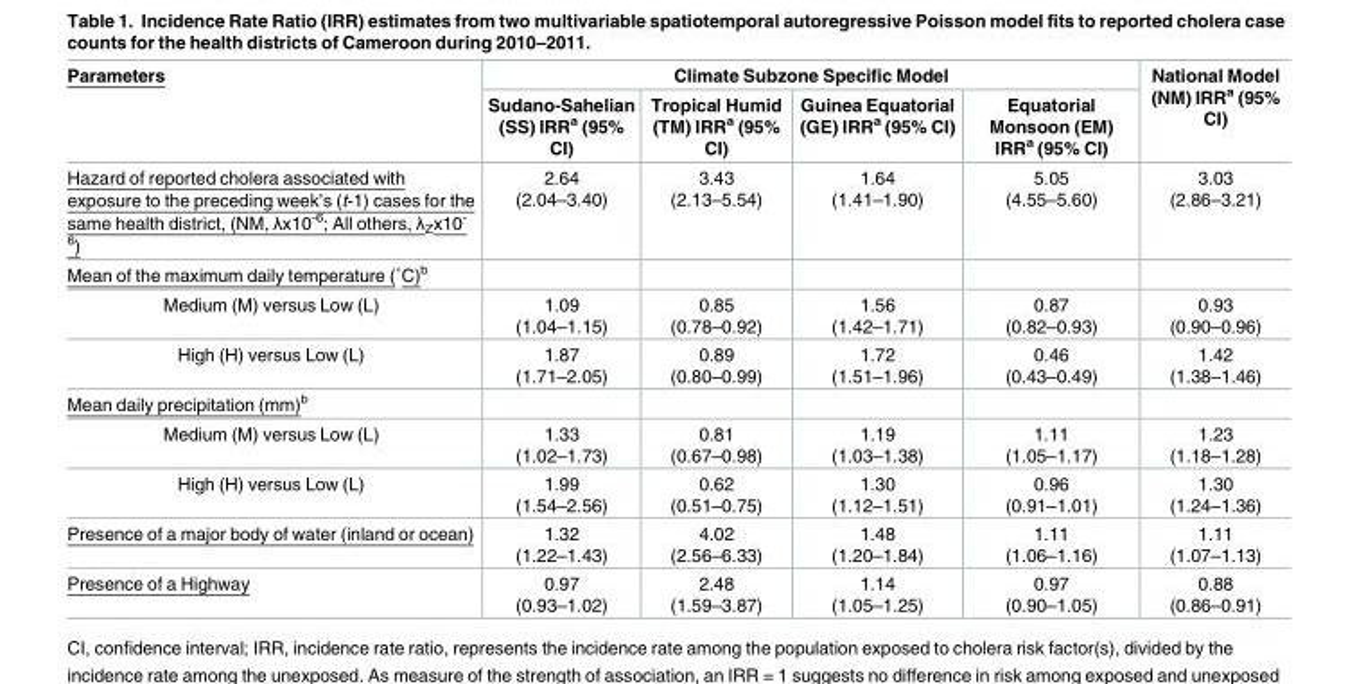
<table><thead><tr><td rowspan="2">Parameters</td><td colspan="4">Climate Subzone Specific Model</td><td rowspan="2">National Model (NM) IRR<sup>a</sup> (95% CI)</td></tr><tr><td>Sudano-Sahelian (SS) IRR<sup>a</sup> (95% CI)</td><td>Tropical Humid (TM) IRR<sup>a</sup> (95% CI)</td><td>Guinea Equatorial (GE) IRR<sup>a</sup> (95% CI)</td><td>Equatorial Monsoon (EM) IRR<sup>a</sup> (95% CI)</td></tr></thead><tbody><tr><td>Hazard of reported cholera associated with exposure to the preceding week’s (t-1) cases for the same health district, (NM, λx10<sup>-6</sup>; All others, λ<sub>Z</sub>x10<sup>- 6</sup>)</td><td>2.64 (2.04–3.40)</td><td>3.43 (2.13–5.54)</td><td>1.64 (1.41–1.90)</td><td>5.05 (4.55–5.60)</td><td>3.03 (2.86–3.21)</td></tr><tr><td colspan="6">Mean of the maximum daily temperature (˚C)b</td></tr><tr><td>Medium (M) versus Low (L)</td><td>1.09 (1.04–1.15)</td><td>0.85 (0.78–0.92)</td><td>1.56 (1.42–1.71)</td><td>0.87 (0.82–0.93)</td><td>0.93 (0.90–0.96)</td></tr><tr><td>High (H) versus Low (L)</td><td>1.87 (1.71–2.05)</td><td>0.89 (0.80–0.99)</td><td>1.72 (1.51–1.96)</td><td>0.46 (0.43–0.49)</td><td>1.42 (1.38–1.46)</td></tr><tr><td colspan="6">Mean daily precipitation (mm)<sup>b</sup></td></tr><tr><td>Medium (M) versus Low (L)</td><td>1.33 (1.02–1.73)</td><td>0.81 (0.67–0.98)</td><td>1.19 (1.03–1.38)</td><td>1.11 (1.05–1.17)</td><td>1.23 (1.18–1.28)</td></tr><tr><td>High (H) versus Low (L)</td><td>1.99 (1.54–2.56)</td><td>0.62 (0.51–0.75)</td><td>1.30 (1.12–1.51)</td><td>0.96 (0.91–1.01)</td><td>1.30 (1.24–1.36)</td></tr><tr><td>Presence of a major body of water (inland or ocean)</td><td>1.32 (1.22–1.43)</td><td>4.02 (2.56–6.33)</td><td>1.48 (1.20–1.84)</td><td>1.11 (1.06–1.16)</td><td>1.11 (1.07–1.13)</td></tr><tr><td>Presence of a Highway</td><td>0.97 (0.93–1.02)</td><td>2.48 (1.59–3.87)</td><td>1.14 (1.05–1.25)</td><td>0.97 (0.90–1.05)</td><td>0.88 (0.86–0.91)</td></tr></tbody></table>